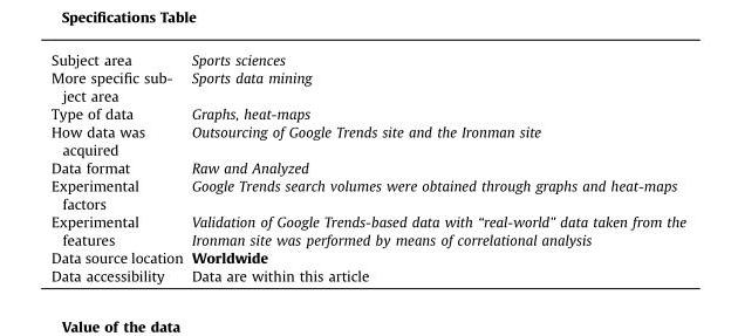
<table><tbody><tr><td>Subject area</td><td>Sports sciences</td></tr><tr><td>More specific sub- ject area</td><td>Sports data mining</td></tr><tr><td>Type of data</td><td>Graphs, heat-maps</td></tr><tr><td>How data was acquired</td><td>Outsourcing of Google Trends site and the Ironman site</td></tr><tr><td>Data format</td><td>Raw and Analyzed</td></tr><tr><td>Experimental factors</td><td>Google Trends search volumes were obtained through graphs and heat-maps</td></tr><tr><td>Experimental features</td><td>Validation of Google Trends-based data with “real-world” data taken from the Ironman site was performed by means of correlational analysis</td></tr><tr><td>Data source location</td><td>Worldwide</td></tr><tr><td>Data accessibility</td><td>Data are within this article</td></tr></tbody></table>